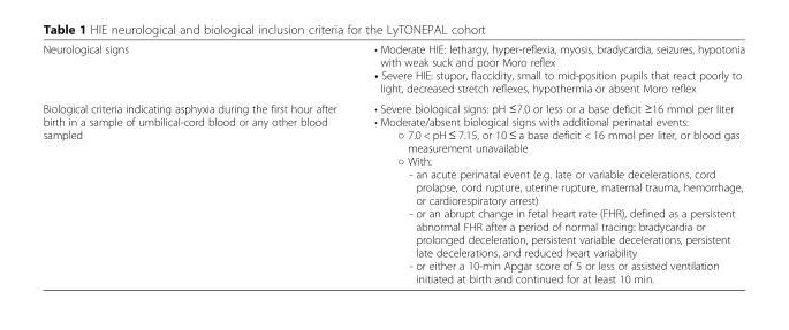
<table><tbody><tr><td>Neurological signs</td><td>• Moderate HIE: lethargy, hyper-reflexia, myosis, bradycardia, seizures, hypotonia with weak suck and poor Moro reflex • Severe HIE: stupor, flaccidity, small to mid-position pupils that react poorly to light, decreased stretch reflexes, hypothermia or absent Moro reflex</td></tr><tr><td>Biological criteria indicating asphyxia during the first hour after birth in a sample of umbilical-cord blood or any other blood sampled</td><td>• Severe biological signs: pH ≤7.0 or less or a base deficit ≥16 mmol per liter • Moderate/absent biological signs with additional perinatal events: ○ 7.0 &lt; pH ≤ 7.15, or 10 ≤ a base deficit &lt; 16 mmol per liter, or blood gas measurement unavailable ○ With: - an acute perinatal event (e.g. late or variable decelerations, cord prolapse, cord rupture, uterine rupture, maternal trauma, hemorrhage, or cardiorespiratory arrest) - or an abrupt change in fetal heart rate (FHR), defined as a persistent abnormal FHR after a period of normal tracing: bradycardia or prolonged deceleration, persistent variable decelerations, persistent late decelerations, and reduced heart variability - or either a 10-min Apgar score of 5 or less or assisted ventilation initiated at birth and continued for at least 10 min.</td></tr></tbody></table>